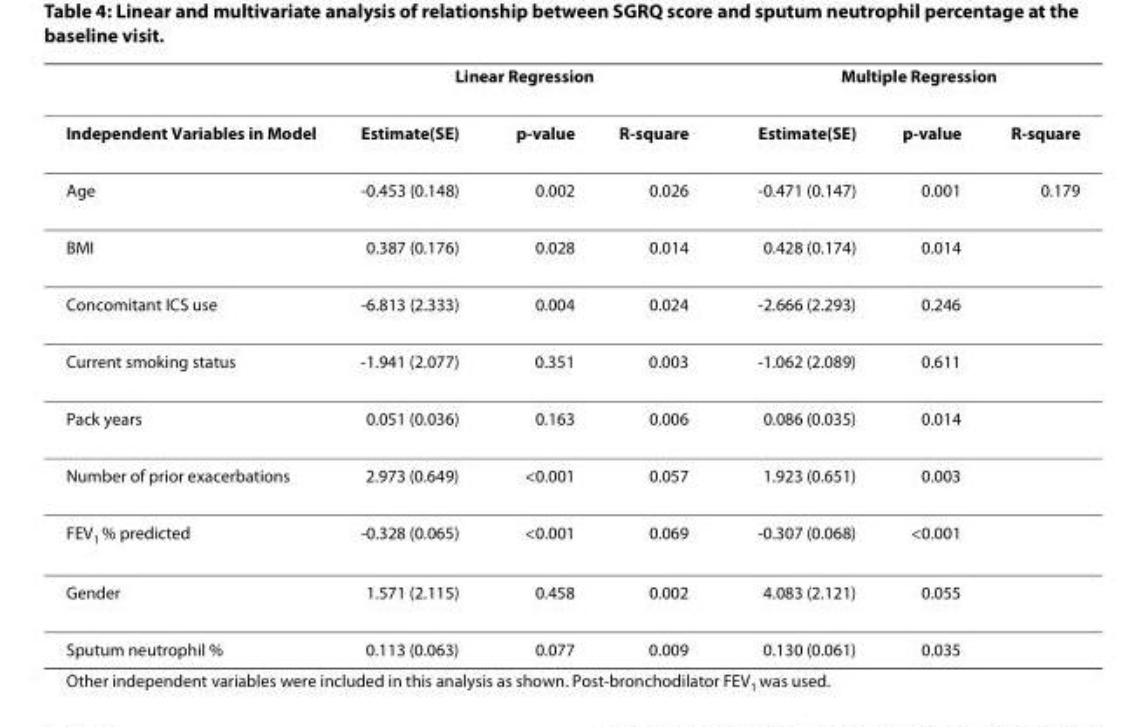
<table><thead><tr><td rowspan="2">Independent Variables in Model</td><td colspan="3">Linear Regression</td><td colspan="3">Multiple Regression</td></tr><tr><td>Estimate(SE)</td><td>p-value</td><td>R-square</td><td>Estimate(SE)</td><td>p-value</td><td>R-square</td></tr></thead><tbody><tr><td>Age</td><td>-0.453 (0.148)</td><td>0.002</td><td>0.026</td><td>-0.471 (0.147)</td><td>0.001</td><td>0.179</td></tr><tr><td>BMI</td><td>0.387 (0.176)</td><td>0.028</td><td>0.014</td><td>0.428 (0.174)</td><td>0.014</td><td></td></tr><tr><td>Concomitant ICS use</td><td>-6.813 (2.333)</td><td>0.004</td><td>0.024</td><td>-2.666 (2.293)</td><td>0.246</td><td></td></tr><tr><td>Current smoking status</td><td>-1.941 (2.077)</td><td>0.351</td><td>0.003</td><td>-1.062 (2.089)</td><td>0.611</td><td></td></tr><tr><td>Pack years</td><td>0.051 (0.036)</td><td>0.163</td><td>0.006</td><td>0.086 (0.035)</td><td>0.014</td><td></td></tr><tr><td>Number of prior exacerbations</td><td>2.973 (0.649)</td><td>&lt;0.001</td><td>0.057</td><td>1.923 (0.651)</td><td>0.003</td><td></td></tr><tr><td>FEV1 % predicted</td><td>-0.328 (0.065)</td><td>&lt;0.001</td><td>0.069</td><td>-0.307 (0.068)</td><td>&lt;0.001</td><td></td></tr><tr><td>Gender</td><td>1.571 (2.115)</td><td>0.458</td><td>0.002</td><td>4.083 (2.121)</td><td>0.055</td><td></td></tr><tr><td>Sputum neutrophil %</td><td>0.113 (0.063)</td><td>0.077</td><td>0.009</td><td>0.130 (0.061)</td><td>0.035</td><td></td></tr></tbody></table>